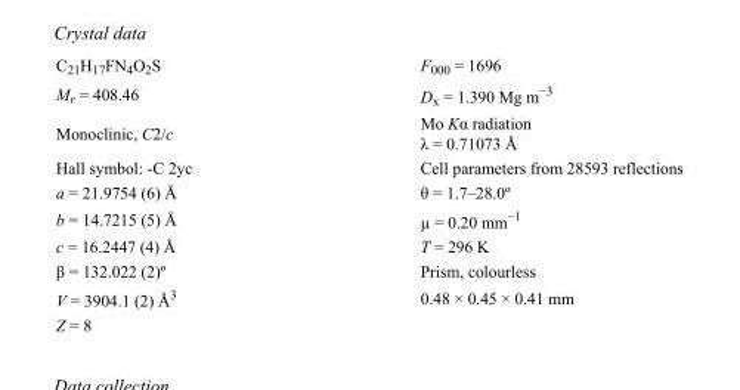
<table><tbody><tr><td>C<sub>21</sub>H<sub>17</sub>FN<sub>4</sub>O<sub>2</sub>S</td><td>F000 = 1696</td></tr><tr><td>M<sub>r</sub> = 408.46</td><td>D<sub>x</sub> = 1.390 Mg m<sup>−3</sup></td></tr><tr><td>Monoclinic, C2/c</td><td>Mo Kα radiation λ = 0.71073 Å</td></tr><tr><td>Hall symbol: -C 2yc</td><td>Cell parameters from 28593 reflections</td></tr><tr><td>a = 21.9754 (6) Å</td><td>θ = 1.7–28.0º</td></tr><tr><td>b = 14.7215 (5) Å</td><td>µ = 0.20 mm<sup>−1</sup></td></tr><tr><td>c = 16.2447 (4) Å</td><td>T = 296 K</td></tr><tr><td>β = 132.022 (2)º</td><td>Prism, colourless</td></tr><tr><td>V = 3904.1 (2) Å<sup>3</sup></td><td>0.48 × 0.45 × 0.41 mm</td></tr><tr><td>Z = 8</td><td></td></tr></tbody></table>